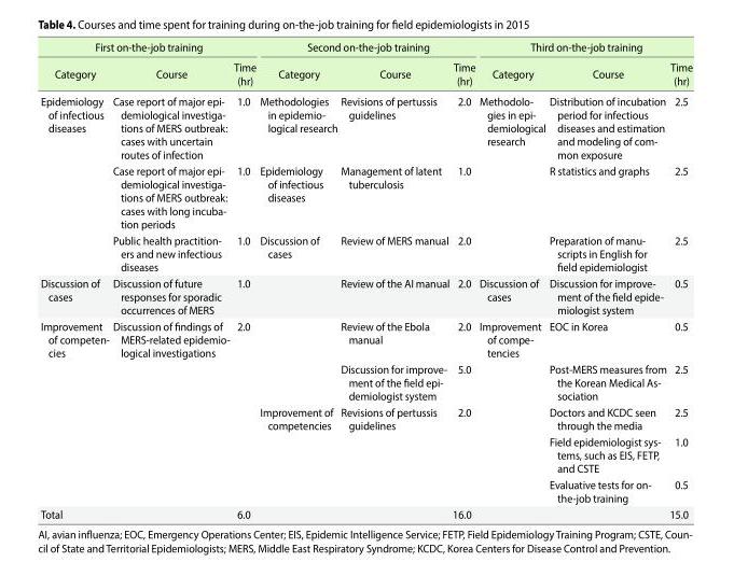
<table><thead><tr><td colspan="3">First on-the-job training</td><td colspan="3">Second on-the-job training</td><td colspan="3">Third on-the-job training</td></tr><tr><td>Category</td><td>Course</td><td>Time (hr)</td><td>Category</td><td>Course</td><td>Time (hr)</td><td>Category</td><td>Course</td><td>Time (hr)</td></tr></thead><tbody><tr><td rowspan="3">Epidemiology of infectious diseases</td><td>Case report of major epi- demiological investiga- tions of MERS outbreak: cases with uncertain routes of infection</td><td>1.0</td><td>Methodologies in epidemio- logical research</td><td>Revisions of pertussis guidelines</td><td>2.0</td><td rowspan="3">Methodolo- gies in epi- demiological research</td><td>Distribution of incubation period for infectious diseases and estimation and modeling of com- mon exposure</td><td>2.5</td></tr><tr><td>Case report of major epi- demiological investiga- tions of MERS outbreak: cases with long incuba- tion periods</td><td>1.0</td><td>Epidemiology of infectious diseases</td><td>Management of latent tuberculosis</td><td>1.0</td><td>R statistics and graphs</td><td>2.5</td></tr><tr><td>Public health practition- ers and new infectious diseases</td><td>1.0</td><td>Discussion of cases</td><td>Review of MERS manual</td><td>2.0</td><td>Preparation of manu- scripts in English for field epidemiologist</td><td>2.5</td></tr><tr><td>Discussion of cases</td><td>Discussion of future responses for sporadic occurrences of MERS</td><td>1.0</td><td></td><td>Review of the AI manual</td><td>2.0</td><td>Discussion of cases</td><td>Discussion for improve- ment of the field epide- miologist system</td><td>0.5</td></tr><tr><td rowspan="5">Improvement of competen- cies</td><td>Discussion of findings of MERS-related epidemio- logical investigations</td><td>2.0</td><td></td><td>Review of the Ebola manual</td><td>2.0</td><td rowspan="5">Improvement of compe- tencies</td><td>EOC in Korea</td><td>0.5</td></tr><tr><td></td><td></td><td></td><td>Discussion for improve- ment of the field epi- demiologist system</td><td>5.0</td><td>Post-MERS measures from the Korean Medical As- sociation</td><td>2.5</td></tr><tr><td></td><td></td><td>Improvement of competencies</td><td>Revisions of pertussis guidelines</td><td>2.0</td><td>Doctors and KCDC seen through the media</td><td>2.5</td></tr><tr><td></td><td></td><td></td><td></td><td></td><td>Field epidemiologist sys- tems, such as EIS, FETP, and CSTE</td><td>1.0</td></tr><tr><td></td><td></td><td></td><td></td><td></td><td>Evaluative tests for on- the-job training</td><td>0.5</td></tr><tr><td>Total</td><td></td><td>6.0</td><td></td><td></td><td>16.0</td><td></td><td></td><td>15.0</td></tr></tbody></table>